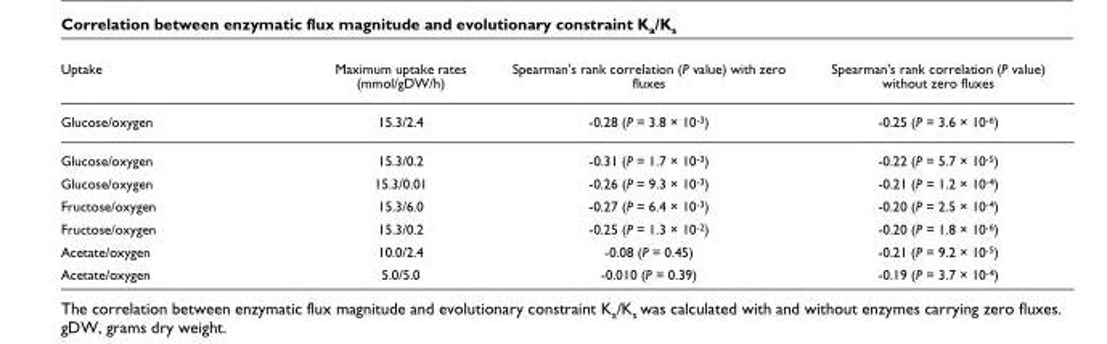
<table><thead><tr><td>Uptake</td><td>Maximum uptake rates (mmol/gDW/h)</td><td>Spearman&#x27;s rank correlation (P value) with zero fluxes</td><td>Spearman&#x27;s rank correlation (P value) without zero fluxes</td></tr></thead><tbody><tr><td>Glucose/oxygen</td><td>15.3/2.4</td><td>-0.28 (P = 3.8 × 10-3)</td><td>-0.25 (P = 3.6 × 10-6)</td></tr><tr><td>Glucose/oxygen</td><td>15.3/0.2</td><td>-0.31 (P = 1.7 × 10-3)</td><td>-0.22 (P = 5.7 × 10-5)</td></tr><tr><td>Glucose/oxygen</td><td>15.3/0.01</td><td>-0.26 (P = 9.3 × 10-3)</td><td>-0.21 (P = 1.2 × 10-4)</td></tr><tr><td>Fructose/oxygen</td><td>15.3/6.0</td><td>-0.27 (P = 6.4 × 10-3)</td><td>-0.20 (P = 2.5 × 10-4)</td></tr><tr><td>Fructose/oxygen</td><td>15.3/0.2</td><td>-0.25 (P = 1.3 × 10-2)</td><td>-0.20 (P = 1.8 × 10-6)</td></tr><tr><td>Acetate/oxygen</td><td>10.0/2.4</td><td>-0.08 (P = 0.45)</td><td>-0.21 (P = 9.2 × 10-5)</td></tr><tr><td>Acetate/oxygen</td><td>5.0/5.0</td><td>-0.010 (P = 0.39)</td><td>-0.19 (P = 3.7 × 10-4)</td></tr></tbody></table>